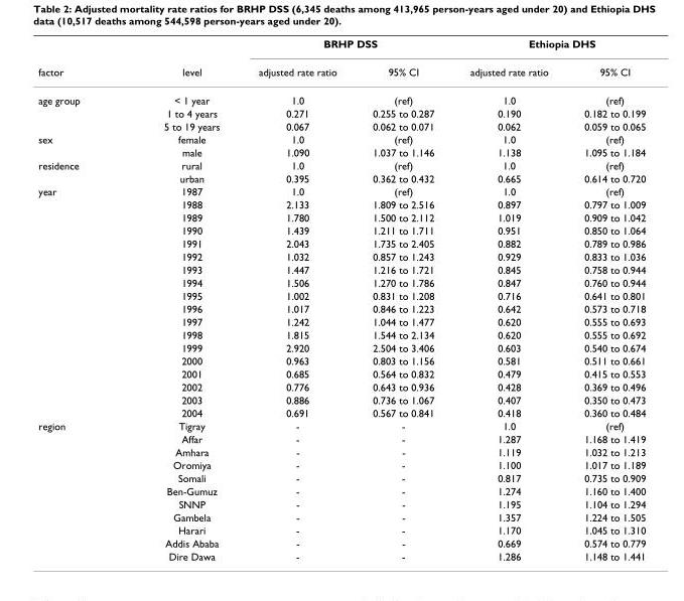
<table><thead><tr><td rowspan="2">factor</td><td rowspan="2">level</td><td colspan="2">BRHP DSS</td><td colspan="2">Ethiopia DHS</td></tr><tr><td>adjusted rate ratio</td><td>95% CI</td><td>adjusted rate ratio</td><td>95% CI</td></tr></thead><tbody><tr><td rowspan="3">age group</td><td>&lt; 1 year</td><td>1.0</td><td>(ref)</td><td>1.0</td><td>(ref)</td></tr><tr><td>1 to 4 years</td><td>0.271</td><td>0.255 to 0.287</td><td>0.190</td><td>0.182 to 0.199</td></tr><tr><td>5 to 19 years</td><td>0.067</td><td>0.062 to 0.071</td><td>0.062</td><td>0.059 to 0.065</td></tr><tr><td rowspan="2">sex</td><td>female</td><td>1.0</td><td>(ref)</td><td>1.0</td><td>(ref)</td></tr><tr><td>male</td><td>1.090</td><td>1.037 to 1.146</td><td>1.138</td><td>1.095 to 1.184</td></tr><tr><td rowspan="2">residence</td><td>rural</td><td>1.0</td><td>(ref)</td><td>1.0</td><td>(ref)</td></tr><tr><td>urban</td><td>0.395</td><td>0.362 to 0.432</td><td>0.665</td><td>0.614 to 0.720</td></tr><tr><td rowspan="18">year</td><td>1987</td><td>1.0</td><td>(ref)</td><td>1.0</td><td>(ref)</td></tr><tr><td>1988</td><td>2.133</td><td>1.809 to 2.516</td><td>0.897</td><td>0.797 to 1.009</td></tr><tr><td>1989</td><td>1.780</td><td>1.500 to 2.112</td><td>1.019</td><td>0.909 to 1.042</td></tr><tr><td>1990</td><td>1.439</td><td>1.211 to 1.711</td><td>0.951</td><td>0.850 to 1.064</td></tr><tr><td>1991</td><td>2.043</td><td>1.735 to 2.405</td><td>0.882</td><td>0.789 to 0.986</td></tr><tr><td>1992</td><td>1.032</td><td>0.857 to 1.243</td><td>0.929</td><td>0.833 to 1.036</td></tr><tr><td>1993</td><td>1.447</td><td>1.216 to 1.721</td><td>0.845</td><td>0.758 to 0.944</td></tr><tr><td>1994</td><td>1.506</td><td>1.270 to 1.786</td><td>0.847</td><td>0.760 to 0.944</td></tr><tr><td>1995</td><td>1.002</td><td>0.831 to 1.208</td><td>0.716</td><td>0.641 to 0.801</td></tr><tr><td>1996</td><td>1.017</td><td>0.846 to 1.223</td><td>0.642</td><td>0.573 to 0.718</td></tr><tr><td>1997</td><td>1.242</td><td>1.044 to 1.477</td><td>0.620</td><td>0.555 to 0.693</td></tr><tr><td>1998</td><td>1.815</td><td>1.544 to 2.134</td><td>0.620</td><td>0.555 to 0.692</td></tr><tr><td>1999</td><td>2.920</td><td>2.504 to 3.406</td><td>0.603</td><td>0.540 to 0.674</td></tr><tr><td>2000</td><td>0.963</td><td>0.803 to 1.156</td><td>0.581</td><td>0.511 to 0.661</td></tr><tr><td>2001</td><td>0.685</td><td>0.564 to 0.832</td><td>0.479</td><td>0.415 to 0.553</td></tr><tr><td>2002</td><td>0.776</td><td>0.643 to 0.936</td><td>0.428</td><td>0.369 to 0.496</td></tr><tr><td>2003</td><td>0.886</td><td>0.736 to 1.067</td><td>0.407</td><td>0.350 to 0.473</td></tr><tr><td>2004</td><td>0.691</td><td>0.567 to 0.841</td><td>0.418</td><td>0.360 to 0.484</td></tr><tr><td rowspan="11">region</td><td>Tigray</td><td>-</td><td>-</td><td>1.0</td><td>(ref)</td></tr><tr><td>Affar</td><td>-</td><td>-</td><td>1.287</td><td>1.168 to 1.419</td></tr><tr><td>Amhara</td><td>-</td><td>-</td><td>1.119</td><td>1.032 to 1.213</td></tr><tr><td>Oromiya</td><td>-</td><td>-</td><td>1.100</td><td>1.017 to 1.189</td></tr><tr><td>Somali</td><td>-</td><td>-</td><td>0.817</td><td>0.735 to 0.909</td></tr><tr><td>Ben-Gumuz</td><td>-</td><td>-</td><td>1.274</td><td>1.160 to 1.400</td></tr><tr><td>SNNP</td><td>-</td><td>-</td><td>1.195</td><td>1.104 to 1.294</td></tr><tr><td>Gambela</td><td>-</td><td>-</td><td>1.357</td><td>1.224 to 1.505</td></tr><tr><td>Harari</td><td>-</td><td>-</td><td>1.170</td><td>1.045 to 1.310</td></tr><tr><td>Addis Ababa</td><td>-</td><td>-</td><td>0.669</td><td>0.574 to 0.779</td></tr><tr><td>Dire Dawa</td><td>-</td><td>-</td><td>1.286</td><td>1.148 to 1.441</td></tr></tbody></table>